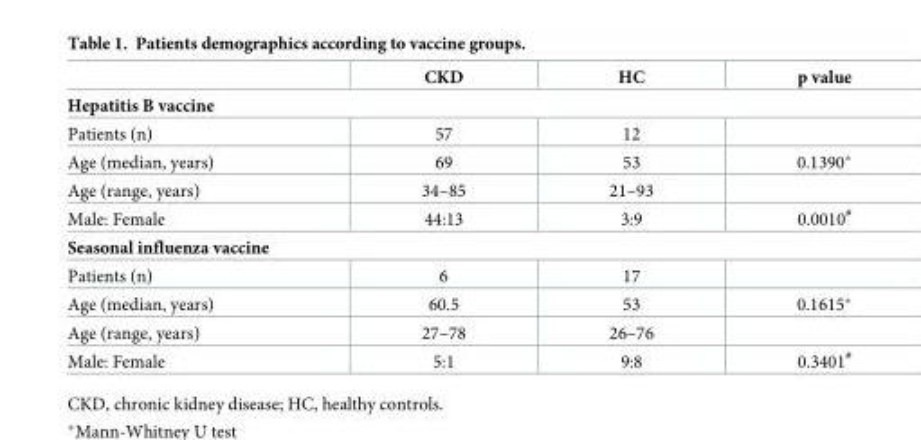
<table><thead><tr><td></td><td>CKD</td><td>HC</td><td>p value</td></tr></thead><tbody><tr><td colspan="4">Hepatitis B vaccine</td></tr><tr><td>Patients (n)</td><td>57</td><td>12</td><td></td></tr><tr><td>Age (median, years)</td><td>69</td><td>53</td><td>0.1390*</td></tr><tr><td>Age (range, years)</td><td>34–85</td><td>21–93</td><td></td></tr><tr><td>Male: Female</td><td>44:13</td><td>3:9</td><td>0.0010<sup>#</sup></td></tr><tr><td colspan="4">Seasonal influenza vaccine</td></tr><tr><td>Patients (n)</td><td>6</td><td>17</td><td></td></tr><tr><td>Age (median, years)</td><td>60.5</td><td>53</td><td>0.1615*</td></tr><tr><td>Age (range, years)</td><td>27–78</td><td>26–76</td><td></td></tr><tr><td>Male: Female</td><td>5:1</td><td>9:8</td><td>0.3401<sup>#</sup></td></tr></tbody></table>